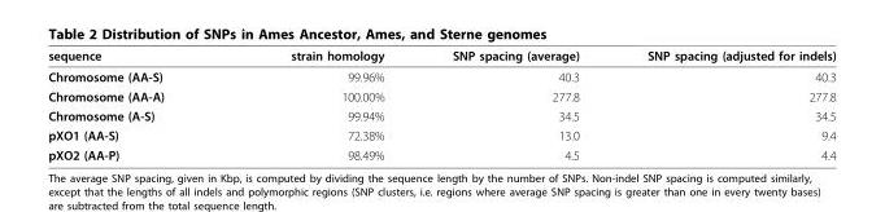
<table><thead><tr><td>sequence</td><td>strain homology</td><td>SNP spacing (average)</td><td>SNP spacing (adjusted for indels)</td></tr></thead><tbody><tr><td>Chromosome (AA-S)</td><td>99.96%</td><td>40.3</td><td>40.3</td></tr><tr><td>Chromosome (AA-A)</td><td>100.00%</td><td>277.8</td><td>277.8</td></tr><tr><td>Chromosome (A-S)</td><td>99.94%</td><td>34.5</td><td>34.5</td></tr><tr><td>pXO1 (AA-S)</td><td>72.38%</td><td>13.0</td><td>9.4</td></tr><tr><td>pXO2 (AA-P)</td><td>98.49%</td><td>4.5</td><td>4.4</td></tr></tbody></table>